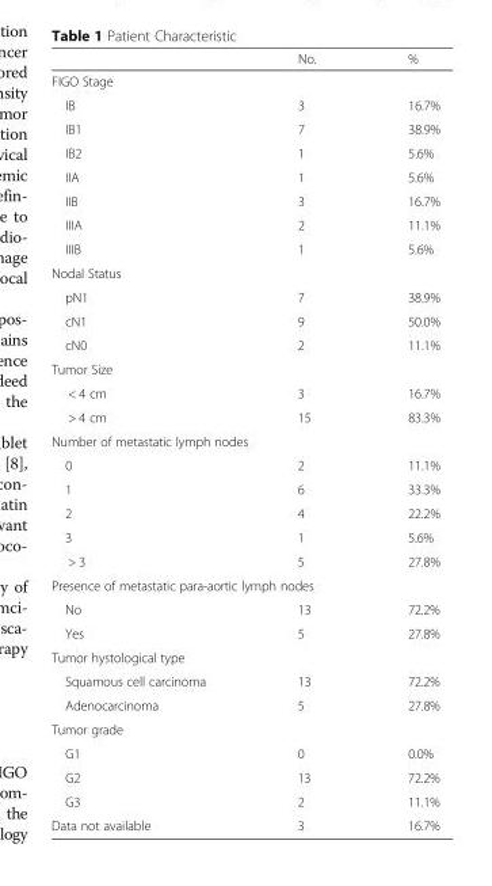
<table><thead><tr><td></td><td>No.</td><td>%</td></tr></thead><tbody><tr><td colspan="3">FIGO Stage</td></tr><tr><td>IB</td><td>3</td><td>16.7%</td></tr><tr><td>IB1</td><td>7</td><td>38.9%</td></tr><tr><td>IB2</td><td>1</td><td>5.6%</td></tr><tr><td>IIA</td><td>1</td><td>5.6%</td></tr><tr><td>IIB</td><td>3</td><td>16.7%</td></tr><tr><td>IIIA</td><td>2</td><td>11.1%</td></tr><tr><td>IIIB</td><td>1</td><td>5.6%</td></tr><tr><td colspan="3">Nodal Status</td></tr><tr><td>pN1</td><td>7</td><td>38.9%</td></tr><tr><td>cN1</td><td>9</td><td>50.0%</td></tr><tr><td>cN0</td><td>2</td><td>11.1%</td></tr><tr><td colspan="3">Tumor Size</td></tr><tr><td>&lt; 4 cm</td><td>3</td><td>16.7%</td></tr><tr><td>&gt; 4 cm</td><td>15</td><td>83.3%</td></tr><tr><td colspan="3">Number of metastatic lymph nodes</td></tr><tr><td>0</td><td>2</td><td>11.1%</td></tr><tr><td>1</td><td>6</td><td>33.3%</td></tr><tr><td>2</td><td>4</td><td>22.2%</td></tr><tr><td>3</td><td>1</td><td>5.6%</td></tr><tr><td>&gt; 3</td><td>5</td><td>27.8%</td></tr><tr><td colspan="3">Presence of metastatic para-aortic lymph nodes</td></tr><tr><td>No</td><td>13</td><td>72.2%</td></tr><tr><td>Yes</td><td>5</td><td>27.8%</td></tr><tr><td colspan="3">Tumor hystological type</td></tr><tr><td>Squamous cell carcinoma</td><td>13</td><td>72.2%</td></tr><tr><td>Adenocarcinoma</td><td>5</td><td>27.8%</td></tr><tr><td colspan="3">Tumor grade</td></tr><tr><td>G1</td><td>0</td><td>0.0%</td></tr><tr><td>G2</td><td>13</td><td>72.2%</td></tr><tr><td>G3</td><td>2</td><td>11.1%</td></tr><tr><td>Data not available</td><td>3</td><td>16.7%</td></tr></tbody></table>